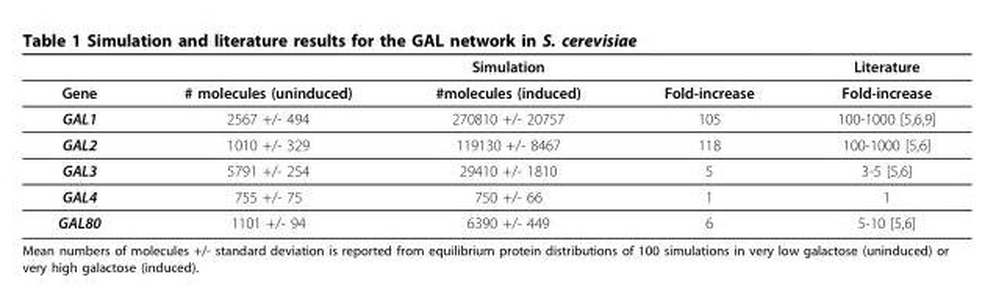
<table><thead><tr><td></td><td></td><td>Simulation</td><td></td><td>Literature</td></tr></thead><tbody><tr><td>Gene</td><td># molecules (uninduced)</td><td>#molecules (induced)</td><td>Fold-increase</td><td>Fold-increase</td></tr><tr><td>GAL1</td><td>2567 +/- 494</td><td>270810 +/- 20757</td><td>105</td><td>100-1000 [5,6,9]</td></tr><tr><td>GAL2</td><td>1010 +/- 329</td><td>119130 +/- 8467</td><td>118</td><td>100-1000 [5,6]</td></tr><tr><td>GAL3</td><td>5791 +/- 254</td><td>29410 +/- 1810</td><td>5</td><td>3-5 [5,6]</td></tr><tr><td>GAL4</td><td>755 +/- 75</td><td>750 +/- 66</td><td>1</td><td>1</td></tr><tr><td>GAL80</td><td>1101 +/- 94</td><td>6390 +/- 449</td><td>6</td><td>5-10 [5,6]</td></tr></tbody></table>